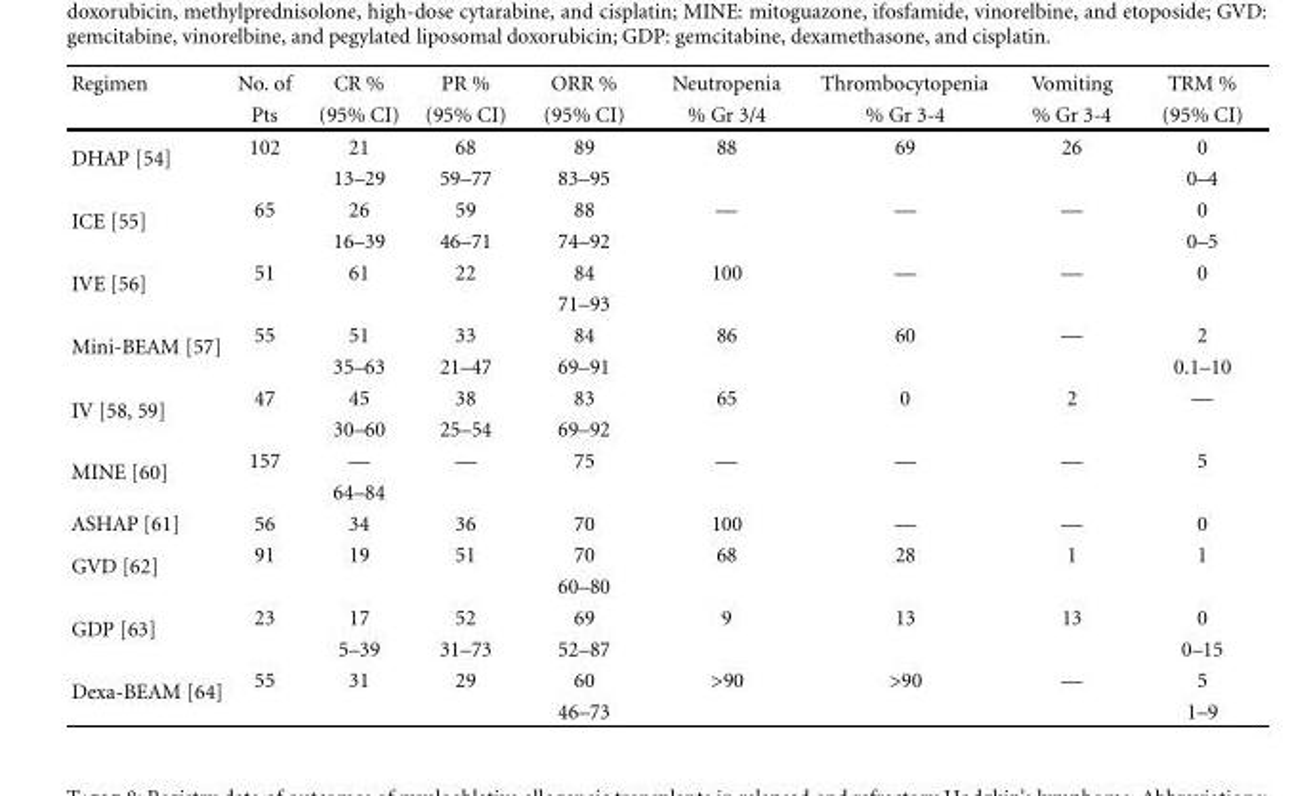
<table><thead><tr><td rowspan="2">Regimen</td><td rowspan="2">No. of Pts</td><td rowspan="2">CR % (95% CI)</td><td rowspan="2">PR % (95% CI)</td><td rowspan="2">ORR % (95% CI)</td><td rowspan="2">Neutropenia % Gr 3/4</td><td rowspan="2">Thrombocytopenia % Gr 3-4</td><td rowspan="2">Vomiting % Gr 3-4</td><td rowspan="2">TRM % (95% CI)</td></tr><tr></tr></thead><tbody><tr><td rowspan="2">DHAP [54]</td><td>102</td><td>21</td><td>68</td><td>89</td><td>88</td><td>69</td><td>26</td><td>0</td></tr><tr><td></td><td>13–29</td><td>59–77</td><td>83–95</td><td></td><td></td><td></td><td>0–4</td></tr><tr><td rowspan="2">ICE [55]</td><td>65</td><td>26</td><td>59</td><td>88</td><td>—</td><td>—</td><td>—</td><td>0</td></tr><tr><td></td><td>16–39</td><td>46–71</td><td>74–92</td><td></td><td></td><td></td><td>0–5</td></tr><tr><td rowspan="2">IVE [56]</td><td>51</td><td>61</td><td>22</td><td>84</td><td>100</td><td>—</td><td>—</td><td>0</td></tr><tr><td></td><td></td><td></td><td>71–93</td><td></td><td></td><td></td><td></td></tr><tr><td rowspan="2">Mini-BEAM [57]</td><td>55</td><td>51</td><td>33</td><td>84</td><td>86</td><td>60</td><td>—</td><td>2</td></tr><tr><td></td><td>35–63</td><td>21–47</td><td>69–91</td><td></td><td></td><td></td><td>0.1–10</td></tr><tr><td rowspan="2">IV [58, 59]</td><td>47</td><td>45</td><td>38</td><td>83</td><td>65</td><td>0</td><td>2</td><td>—</td></tr><tr><td></td><td>30–60</td><td>25–54</td><td>69–92</td><td></td><td></td><td></td><td></td></tr><tr><td rowspan="2">MINE [60]</td><td>157</td><td>—</td><td>—</td><td>75</td><td>—</td><td>—</td><td>—</td><td>5</td></tr><tr><td></td><td>64–84</td><td></td><td></td><td></td><td></td><td></td><td></td></tr><tr><td>ASHAP [61]</td><td>56</td><td>34</td><td>36</td><td>70</td><td>100</td><td>—</td><td>—</td><td>0</td></tr><tr><td rowspan="2">GVD [62]</td><td>91</td><td>19</td><td>51</td><td>70</td><td>68</td><td>28</td><td>1</td><td>1</td></tr><tr><td></td><td></td><td></td><td>60–80</td><td></td><td></td><td></td><td></td></tr><tr><td rowspan="2">GDP [63]</td><td>23</td><td>17</td><td>52</td><td>69</td><td>9</td><td>13</td><td>13</td><td>0</td></tr><tr><td></td><td>5–39</td><td>31–73</td><td>52–87</td><td></td><td></td><td></td><td>0–15</td></tr><tr><td rowspan="2">Dexa-BEAM [64]</td><td>55</td><td>31</td><td>29</td><td>60</td><td>&gt;90</td><td>&gt;90</td><td>—</td><td>5</td></tr><tr><td></td><td></td><td></td><td>46–73</td><td></td><td></td><td></td><td>1–9</td></tr></tbody></table>